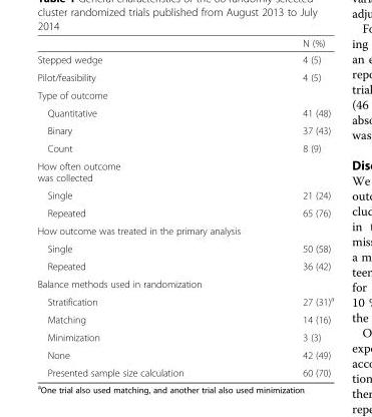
<table><thead><tr><td></td><td>N (%)</td></tr></thead><tbody><tr><td>Stepped wedge</td><td>4 (5)</td></tr><tr><td>Pilot/feasibility</td><td>4 (5)</td></tr><tr><td colspan="2">Type of outcome</td></tr><tr><td>Quantitative</td><td>41 (48)</td></tr><tr><td>Binary</td><td>37 (43)</td></tr><tr><td>Count</td><td>8 (9)</td></tr><tr><td colspan="2">How often outcome was collected</td></tr><tr><td>Single</td><td>21 (24)</td></tr><tr><td>Repeated</td><td>65 (76)</td></tr><tr><td colspan="2">How outcome was treated in the primary analysis</td></tr><tr><td>Single</td><td>50 (58)</td></tr><tr><td>Repeated</td><td>36 (42)</td></tr><tr><td colspan="2">Balance methods used in randomization</td></tr><tr><td>Stratification</td><td>27 (31)<sup>a</sup></td></tr><tr><td>Matching</td><td>14 (16)</td></tr><tr><td>Minimization</td><td>3 (3)</td></tr><tr><td>None</td><td>42 (49)</td></tr><tr><td>Presented sample size calculation</td><td>60 (70)</td></tr></tbody></table>